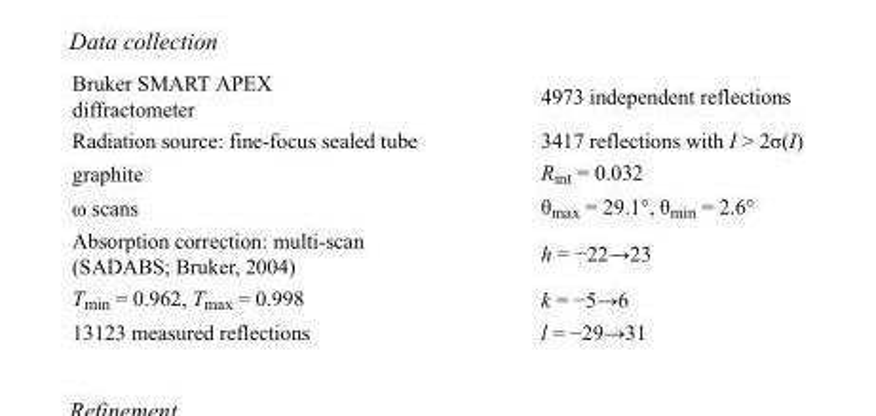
<table><tbody><tr><td>Bruker SMART APEX diffractometer</td><td>4973 independent reflections</td></tr><tr><td>Radiation source: fine-focus sealed tube</td><td>3417 reflections with I &gt; 2σ(I)</td></tr><tr><td>graphite</td><td>R<sub>int</sub> = 0.032</td></tr><tr><td>ω scans</td><td>θ<sub>max</sub> = 29.1°, θ<sub>min</sub> = 2.6°</td></tr><tr><td>Absorption correction: multi-scan (SADABS; Bruker, 2004)</td><td>h = −22→23</td></tr><tr><td>T<sub>min</sub> = 0.962, T<sub>max</sub> = 0.998</td><td>k = −5→6</td></tr><tr><td>13123 measured reflections</td><td>l = −29→31</td></tr></tbody></table>